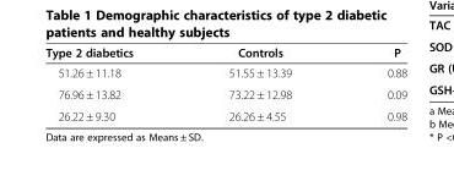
<table><thead><tr><td>Type 2 diabetics</td><td>Controls</td><td>P</td></tr></thead><tbody><tr><td>51.26 ± 11.18</td><td>51.55 ± 13.39</td><td>0.88</td></tr><tr><td>76.96 ± 13.82</td><td>73.22 ± 12.98</td><td>0.09</td></tr><tr><td>26.22 ± 9.30</td><td>26.26 ± 4.55</td><td>0.98</td></tr></tbody></table>